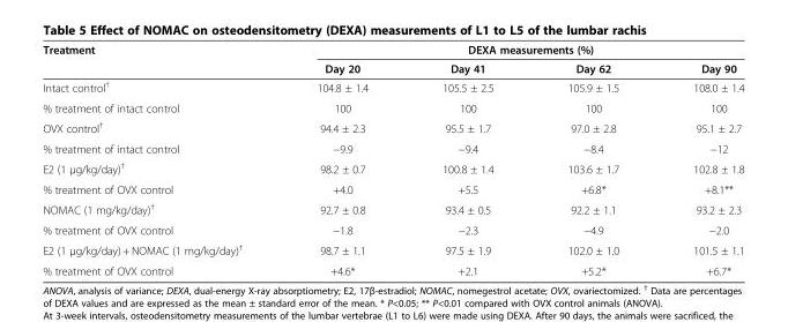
<table><thead><tr><td rowspan="2">Treatment</td><td colspan="4">DEXA measurements (%)</td></tr><tr><td>Day 20</td><td>Day 41</td><td>Day 62</td><td>Day 90</td></tr></thead><tbody><tr><td>Intact control<sup>†</sup></td><td>104.8 ± 1.4</td><td>105.5 ± 2.5</td><td>105.9 ± 1.5</td><td>108.0 ± 1.4</td></tr><tr><td>% treatment of intact control</td><td>100</td><td>100</td><td>100</td><td>100</td></tr><tr><td>OVX control<sup>†</sup></td><td>94.4 ± 2.3</td><td>95.5 ± 1.7</td><td>97.0 ± 2.8</td><td>95.1 ± 2.7</td></tr><tr><td>% treatment of intact control</td><td>−9.9</td><td>−9.4</td><td>−8.4</td><td>−12</td></tr><tr><td>E2 (1 μg/kg/day)<sup>†</sup></td><td>98.2 ± 0.7</td><td>100.8 ± 1.4</td><td>103.6 ± 1.7</td><td>102.8 ± 1.8</td></tr><tr><td>% treatment of OVX control</td><td>+4.0</td><td>+5.5</td><td>+6.8*</td><td>+8.1**</td></tr><tr><td>NOMAC (1 mg/kg/day)<sup>†</sup></td><td>92.7 ± 0.8</td><td>93.4 ± 0.5</td><td>92.2 ± 1.1</td><td>93.2 ± 2.3</td></tr><tr><td>% treatment of OVX control</td><td>−1.8</td><td>−2.3</td><td>−4.9</td><td>−2.0</td></tr><tr><td>E2 (1 μg/kg/day) + NOMAC (1 mg/kg/day)<sup>†</sup></td><td>98.7 ± 1.1</td><td>97.5 ± 1.9</td><td>102.0 ± 1.0</td><td>101.5 ± 1.1</td></tr><tr><td>% treatment of OVX control</td><td>+4.6*</td><td>+2.1</td><td>+5.2*</td><td>+6.7*</td></tr></tbody></table>